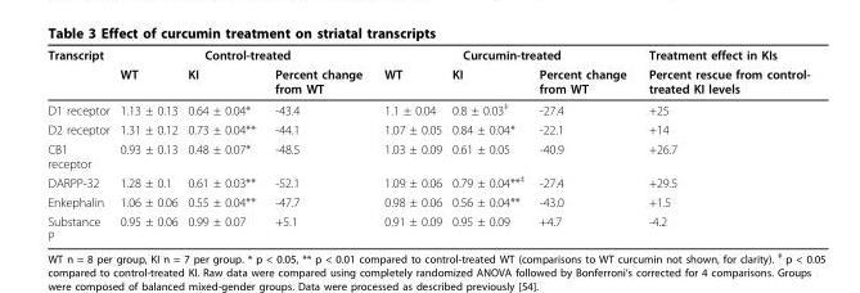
<table><thead><tr><td rowspan="2">Transcript</td><td colspan="3">Control-treated</td><td colspan="3">Curcumin-treated</td><td rowspan="2">Treatment effect in KIs Percent rescue from control- treated KI levels</td></tr><tr><td>WT</td><td>KI</td><td>Percent change from WT</td><td>WT</td><td>KI</td><td>Percent change from WT</td></tr></thead><tbody><tr><td>D1 receptor</td><td>1.13 ± 0.13</td><td>0.64 ± 0.04*</td><td>-43.4</td><td>1.1 ± 0.04</td><td>0.8 ± 0.03<sup>‡</sup></td><td>-27.4</td><td>+25</td></tr><tr><td>D2 receptor</td><td>1.31 ± 0.12</td><td>0.73 ± 0.04**</td><td>-44.1</td><td>1.07 ± 0.05</td><td>0.84 ± 0.04*</td><td>-22.1</td><td>+14</td></tr><tr><td>CB1 receptor</td><td>0.93 ± 0.13</td><td>0.48 ± 0.07*</td><td>-48.5</td><td>1.03 ± 0.09</td><td>0.61 ± 0.05</td><td>-40.9</td><td>+26.7</td></tr><tr><td>DARPP-32</td><td>1.28 ± 0.1</td><td>0.61 ± 0.03**</td><td>-52.1</td><td>1.09 ± 0.06</td><td>0.79 ± 0.04**<sup>‡</sup></td><td>-27.4</td><td>+29.5</td></tr><tr><td>Enkephalin</td><td>1.06 ± 0.06</td><td>0.55 ± 0.04**</td><td>-47.7</td><td>0.98 ± 0.06</td><td>0.56 ± 0.04**</td><td>-43.0</td><td>+1.5</td></tr><tr><td>Substance P</td><td>0.95 ± 0.06</td><td>0.99 ± 0.07</td><td>+5.1</td><td>0.91 ± 0.09</td><td>0.95 ± 0.09</td><td>+4.7</td><td>-4.2</td></tr></tbody></table>